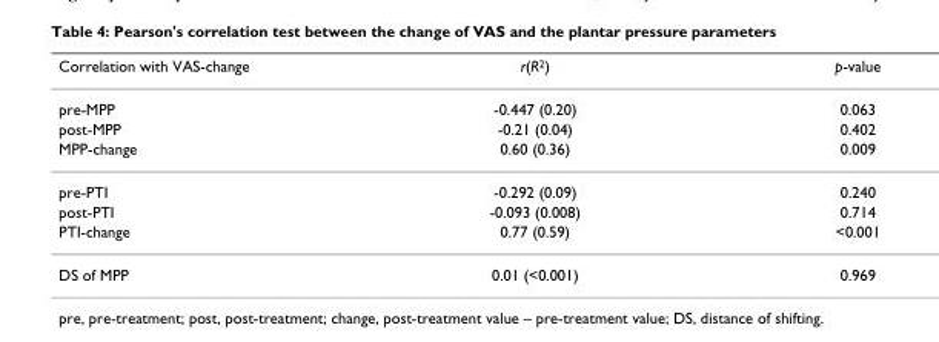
<table><thead><tr><td>Correlation with VAS-change</td><td>r(R2)</td><td>p-value</td></tr></thead><tbody><tr><td>pre-MPP</td><td>-0.447 (0.20)</td><td>0.063</td></tr><tr><td>post-MPP</td><td>-0.21 (0.04)</td><td>0.402</td></tr><tr><td>MPP-change</td><td>0.60 (0.36)</td><td>0.009</td></tr><tr><td>pre-PTI</td><td>-0.292 (0.09)</td><td>0.240</td></tr><tr><td>post-PTI</td><td>-0.093 (0.008)</td><td>0.714</td></tr><tr><td>PTI-change</td><td>0.77 (0.59)</td><td>&lt;0.001</td></tr><tr><td>DS of MPP</td><td>0.01 (&lt;0.001)</td><td>0.969</td></tr></tbody></table>